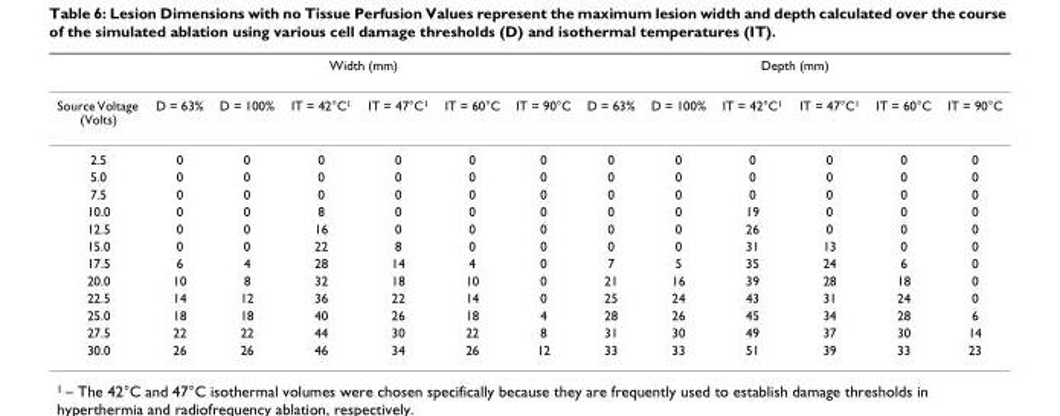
<table><thead><tr><td rowspan="2">Source Voltage (Volts)</td><td colspan="6">Width (mm)</td><td colspan="6">Depth (mm)</td></tr><tr><td>D = 63%</td><td>D = 100%</td><td>IT = 42°C<sup>1</sup></td><td>IT = 47°C<sup>1</sup></td><td>IT = 60°C</td><td>IT = 90°C</td><td>D = 63%</td><td>D = 100%</td><td>IT = 42°C<sup>1</sup></td><td>IT = 47°C<sup>1</sup></td><td>IT = 60°C</td><td>IT = 90°C</td></tr></thead><tbody><tr><td>2.5</td><td>0</td><td>0</td><td>0</td><td>0</td><td>0</td><td>0</td><td>0</td><td>0</td><td>0</td><td>0</td><td>0</td><td>0</td></tr><tr><td>5.0</td><td>0</td><td>0</td><td>0</td><td>0</td><td>0</td><td>0</td><td>0</td><td>0</td><td>0</td><td>0</td><td>0</td><td>0</td></tr><tr><td>7.5</td><td>0</td><td>0</td><td>0</td><td>0</td><td>0</td><td>0</td><td>0</td><td>0</td><td>0</td><td>0</td><td>0</td><td>0</td></tr><tr><td>10.0</td><td>0</td><td>0</td><td>8</td><td>0</td><td>0</td><td>0</td><td>0</td><td>0</td><td>19</td><td>0</td><td>0</td><td>0</td></tr><tr><td>12.5</td><td>0</td><td>0</td><td>16</td><td>0</td><td>0</td><td>0</td><td>0</td><td>0</td><td>26</td><td>0</td><td>0</td><td>0</td></tr><tr><td>15.0</td><td>0</td><td>0</td><td>22</td><td>8</td><td>0</td><td>0</td><td>0</td><td>0</td><td>31</td><td>13</td><td>0</td><td>0</td></tr><tr><td>17.5</td><td>6</td><td>4</td><td>28</td><td>14</td><td>4</td><td>0</td><td>7</td><td>5</td><td>35</td><td>24</td><td>6</td><td>0</td></tr><tr><td>20.0</td><td>10</td><td>8</td><td>32</td><td>18</td><td>10</td><td>0</td><td>21</td><td>16</td><td>39</td><td>28</td><td>18</td><td>0</td></tr><tr><td>22.5</td><td>14</td><td>12</td><td>36</td><td>22</td><td>14</td><td>0</td><td>25</td><td>24</td><td>43</td><td>31</td><td>24</td><td>0</td></tr><tr><td>25.0</td><td>18</td><td>18</td><td>40</td><td>26</td><td>18</td><td>4</td><td>28</td><td>26</td><td>45</td><td>34</td><td>28</td><td>6</td></tr><tr><td>27.5</td><td>22</td><td>22</td><td>44</td><td>30</td><td>22</td><td>8</td><td>31</td><td>30</td><td>49</td><td>37</td><td>30</td><td>14</td></tr><tr><td>30.0</td><td>26</td><td>26</td><td>46</td><td>34</td><td>26</td><td>12</td><td>33</td><td>33</td><td>51</td><td>39</td><td>33</td><td>23</td></tr></tbody></table>